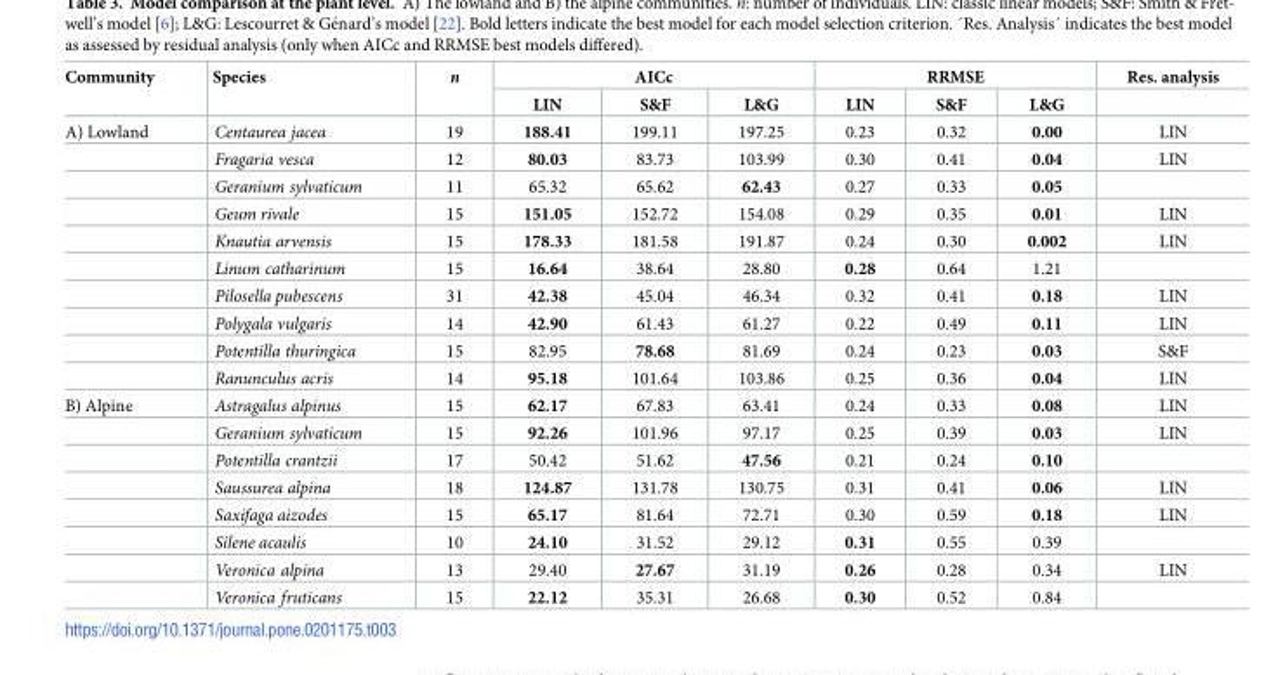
<table><thead><tr><td rowspan="2">Community</td><td rowspan="2">Species</td><td rowspan="2">n</td><td colspan="3">AICc</td><td colspan="3">RRMSE</td><td rowspan="2">Res. analysis</td></tr><tr><td>LIN</td><td>S&amp;F</td><td>L&amp;G</td><td>LIN</td><td>S&amp;F</td><td>L&amp;G</td></tr></thead><tbody><tr><td rowspan="10">A) Lowland</td><td>Centaurea jacea</td><td>19</td><td>188.41</td><td>199.11</td><td>197.25</td><td>0.23</td><td>0.32</td><td>0.00</td><td>LIN</td></tr><tr><td>Fragaria vesca</td><td>12</td><td>80.03</td><td>83.73</td><td>103.99</td><td>0.30</td><td>0.41</td><td>0.04</td><td>LIN</td></tr><tr><td>Geranium sylvaticum</td><td>11</td><td>65.32</td><td>65.62</td><td>62.43</td><td>0.27</td><td>0.33</td><td>0.05</td><td></td></tr><tr><td>Geum rivale</td><td>15</td><td>151.05</td><td>152.72</td><td>154.08</td><td>0.29</td><td>0.35</td><td>0.01</td><td>LIN</td></tr><tr><td>Knautia arvensis</td><td>15</td><td>178.33</td><td>181.58</td><td>191.87</td><td>0.24</td><td>0.30</td><td>0.002</td><td>LIN</td></tr><tr><td>Linum catharinum</td><td>15</td><td>16.64</td><td>38.64</td><td>28.80</td><td>0.28</td><td>0.64</td><td>1.21</td><td></td></tr><tr><td>Pilosella pubescens</td><td>31</td><td>42.38</td><td>45.04</td><td>46.34</td><td>0.32</td><td>0.41</td><td>0.18</td><td>LIN</td></tr><tr><td>Polygala vulgaris</td><td>14</td><td>42.90</td><td>61.43</td><td>61.27</td><td>0.22</td><td>0.49</td><td>0.11</td><td>LIN</td></tr><tr><td>Potentilla thuringica</td><td>15</td><td>82.95</td><td>78.68</td><td>81.69</td><td>0.24</td><td>0.23</td><td>0.03</td><td>S&amp;F</td></tr><tr><td>Ranunculus acris</td><td>14</td><td>95.18</td><td>101.64</td><td>103.86</td><td>0.25</td><td>0.36</td><td>0.04</td><td>LIN</td></tr><tr><td rowspan="8">B) Alpine</td><td>Astragalus alpinus</td><td>15</td><td>62.17</td><td>67.83</td><td>63.41</td><td>0.24</td><td>0.33</td><td>0.08</td><td>LIN</td></tr><tr><td>Geranium sylvaticum</td><td>15</td><td>92.26</td><td>101.96</td><td>97.17</td><td>0.25</td><td>0.39</td><td>0.03</td><td>LIN</td></tr><tr><td>Potentilla crantzii</td><td>17</td><td>50.42</td><td>51.62</td><td>47.56</td><td>0.21</td><td>0.24</td><td>0.10</td><td></td></tr><tr><td>Saussurea alpina</td><td>18</td><td>124.87</td><td>131.78</td><td>130.75</td><td>0.31</td><td>0.41</td><td>0.06</td><td>LIN</td></tr><tr><td>Saxifaga aizodes</td><td>15</td><td>65.17</td><td>81.64</td><td>72.71</td><td>0.30</td><td>0.59</td><td>0.18</td><td>LIN</td></tr><tr><td>Silene acaulis</td><td>10</td><td>24.10</td><td>31.52</td><td>29.12</td><td>0.31</td><td>0.55</td><td>0.39</td><td></td></tr><tr><td>Veronica alpina</td><td>13</td><td>29.40</td><td>27.67</td><td>31.19</td><td>0.26</td><td>0.28</td><td>0.34</td><td>LIN</td></tr><tr><td>Veronica fruticans</td><td>15</td><td>22.12</td><td>35.31</td><td>26.68</td><td>0.30</td><td>0.52</td><td>0.84</td><td></td></tr></tbody></table>